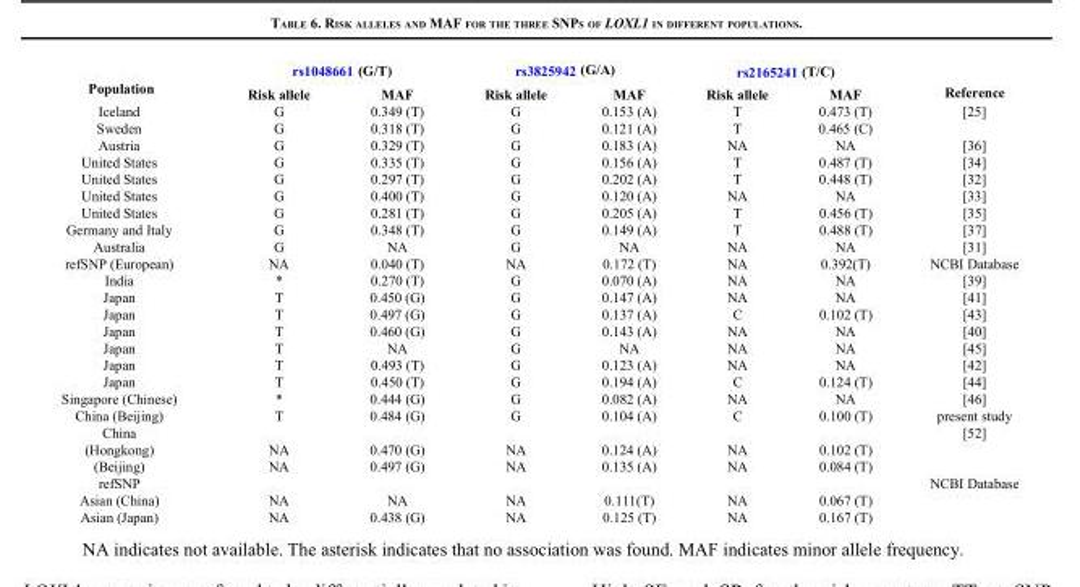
<table><thead><tr><td rowspan="2">Population</td><td colspan="2">rs1048661 (G/T)</td><td colspan="2">rs3825942 (G/A)</td><td colspan="2">rs2165241 (T/C)</td><td rowspan="2">Reference</td></tr><tr><td>Risk allele</td><td>MAF</td><td>Risk allele</td><td>MAF</td><td>Risk allele</td><td>MAF</td></tr></thead><tbody><tr><td>Iceland</td><td>G</td><td>0.349 (T)</td><td>G</td><td>0.153 (A)</td><td>T</td><td>0.473 (T)</td><td>[25]</td></tr><tr><td>Sweden</td><td>G</td><td>0.318 (T)</td><td>G</td><td>0.121 (A)</td><td>T</td><td>0.465 (C)</td><td></td></tr><tr><td>Austria</td><td>G</td><td>0.329 (T)</td><td>G</td><td>0.183 (A)</td><td>NA</td><td>NA</td><td>[36]</td></tr><tr><td>United States</td><td>G</td><td>0.335 (T)</td><td>G</td><td>0.156 (A)</td><td>T</td><td>0.487 (T)</td><td>[34]</td></tr><tr><td>United States</td><td>G</td><td>0.297 (T)</td><td>G</td><td>0.202 (A)</td><td>T</td><td>0.448 (T)</td><td>[32]</td></tr><tr><td>United States</td><td>G</td><td>0.400 (T)</td><td>G</td><td>0.120 (A)</td><td>NA</td><td>NA</td><td>[33]</td></tr><tr><td>United States</td><td>G</td><td>0.281 (T)</td><td>G</td><td>0.205 (A)</td><td>T</td><td>0.456 (T)</td><td>[35]</td></tr><tr><td>Germany and Italy</td><td>G</td><td>0.348 (T)</td><td>G</td><td>0.149 (A)</td><td>T</td><td>0.488 (T)</td><td>[37]</td></tr><tr><td>Australia</td><td>G</td><td>NA</td><td>G</td><td>NA</td><td>NA</td><td>NA</td><td>[31]</td></tr><tr><td>refSNP (European)</td><td>NA</td><td>0.040 (T)</td><td>NA</td><td>0.172 (T)</td><td>NA</td><td>0.392(T)</td><td>NCBI Database</td></tr><tr><td>India</td><td>*</td><td>0.270 (T)</td><td>G</td><td>0.070 (A)</td><td>NA</td><td>NA</td><td>[39]</td></tr><tr><td>Japan</td><td>T</td><td>0.450 (G)</td><td>G</td><td>0.147 (A)</td><td>NA</td><td>NA</td><td>[41]</td></tr><tr><td>Japan</td><td>T</td><td>0.497 (G)</td><td>G</td><td>0.137 (A)</td><td>C</td><td>0.102 (T)</td><td>[43]</td></tr><tr><td>Japan</td><td>T</td><td>0.460 (G)</td><td>G</td><td>0.143 (A)</td><td>NA</td><td>NA</td><td>[40]</td></tr><tr><td>Japan</td><td>T</td><td>NA</td><td>G</td><td>NA</td><td>NA</td><td>NA</td><td>[45]</td></tr><tr><td>Japan</td><td>T</td><td>0.493 (T)</td><td>G</td><td>0.123 (A)</td><td>NA</td><td>NA</td><td>[42]</td></tr><tr><td>Japan</td><td>T</td><td>0.450 (T)</td><td>G</td><td>0.194 (A)</td><td>C</td><td>0.124 (T)</td><td>[44]</td></tr><tr><td>Singapore (Chinese)</td><td>*</td><td>0.444 (G)</td><td>G</td><td>0.082 (A)</td><td>NA</td><td>NA</td><td>[46]</td></tr><tr><td>China (Beijing)</td><td>T</td><td>0.484 (G)</td><td>G</td><td>0.104 (A)</td><td>C</td><td>0.100 (T)</td><td>present study</td></tr><tr><td>China</td><td></td><td></td><td></td><td></td><td></td><td></td><td>[52]</td></tr><tr><td>(Hongkong)</td><td>NA</td><td>0.470 (G)</td><td>NA</td><td>0.124 (A)</td><td>NA</td><td>0.102 (T)</td><td></td></tr><tr><td>(Beijing)</td><td>NA</td><td>0.497 (G)</td><td>NA</td><td>0.135 (A)</td><td>NA</td><td>0.084 (T)</td><td></td></tr><tr><td>refSNP</td><td></td><td></td><td></td><td></td><td></td><td></td><td>NCBI Database</td></tr><tr><td>Asian (China)</td><td>NA</td><td>NA</td><td>NA</td><td>0.111(T)</td><td>NA</td><td>0.067 (T)</td><td></td></tr><tr><td>Asian (Japan)</td><td>NA</td><td>0.438 (G)</td><td>NA</td><td>0.125 (T)</td><td>NA</td><td>0.167 (T)</td><td></td></tr></tbody></table>